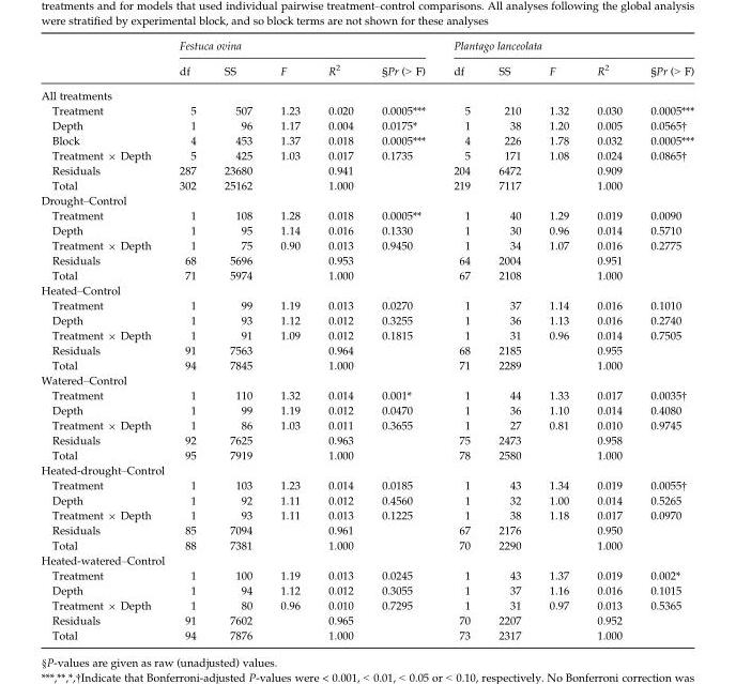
<table><thead><tr><td rowspan="2"></td><td colspan="5">Festuca ovina</td><td colspan="5">Plantago lanceolata</td></tr><tr><td>df</td><td>SS</td><td>F</td><td>R<sup>2</sup></td><td>§Pr (&gt; F)</td><td>df</td><td>SS</td><td>F</td><td>R<sup>2</sup></td><td>§Pr (&gt; F)</td></tr></thead><tbody><tr><td colspan="11">All treatments</td></tr><tr><td>Treatment</td><td>5</td><td>507</td><td>1.23</td><td>0.020</td><td>0.0005***</td><td>5</td><td>210</td><td>1.32</td><td>0.030</td><td>0.0005***</td></tr><tr><td>Depth</td><td>1</td><td>96</td><td>1.17</td><td>0.004</td><td>0.0175*</td><td>1</td><td>38</td><td>1.20</td><td>0.005</td><td>0.0565†</td></tr><tr><td>Block</td><td>4</td><td>453</td><td>1.37</td><td>0.018</td><td>0.0005***</td><td>4</td><td>226</td><td>1.78</td><td>0.032</td><td>0.0005***</td></tr><tr><td>Treatment × Depth</td><td>5</td><td>425</td><td>1.03</td><td>0.017</td><td>0.1735</td><td>5</td><td>171</td><td>1.08</td><td>0.024</td><td>0.0865†</td></tr><tr><td>Residuals</td><td>287</td><td>23680</td><td></td><td>0.941</td><td></td><td>204</td><td>6472</td><td></td><td>0.909</td><td></td></tr><tr><td>Total</td><td>302</td><td>25162</td><td></td><td>1.000</td><td></td><td>219</td><td>7117</td><td></td><td>1.000</td><td></td></tr><tr><td colspan="11">Drought–Control</td></tr><tr><td>Treatment</td><td>1</td><td>108</td><td>1.28</td><td>0.018</td><td>0.0005**</td><td>1</td><td>40</td><td>1.29</td><td>0.019</td><td>0.0090</td></tr><tr><td>Depth</td><td>1</td><td>95</td><td>1.14</td><td>0.016</td><td>0.1330</td><td>1</td><td>30</td><td>0.96</td><td>0.014</td><td>0.5710</td></tr><tr><td>Treatment × Depth</td><td>1</td><td>75</td><td>0.90</td><td>0.013</td><td>0.9450</td><td>1</td><td>34</td><td>1.07</td><td>0.016</td><td>0.2775</td></tr><tr><td>Residuals</td><td>68</td><td>5696</td><td></td><td>0.953</td><td></td><td>64</td><td>2004</td><td></td><td>0.951</td><td></td></tr><tr><td>Total</td><td>71</td><td>5974</td><td></td><td>1.000</td><td></td><td>67</td><td>2108</td><td></td><td>1.000</td><td></td></tr><tr><td colspan="11">Heated–Control</td></tr><tr><td>Treatment</td><td>1</td><td>99</td><td>1.19</td><td>0.013</td><td>0.0270</td><td>1</td><td>37</td><td>1.14</td><td>0.016</td><td>0.1010</td></tr><tr><td>Depth</td><td>1</td><td>93</td><td>1.12</td><td>0.012</td><td>0.3255</td><td>1</td><td>36</td><td>1.13</td><td>0.016</td><td>0.2740</td></tr><tr><td>Treatment × Depth</td><td>1</td><td>91</td><td>1.09</td><td>0.012</td><td>0.1815</td><td>1</td><td>31</td><td>0.96</td><td>0.014</td><td>0.7505</td></tr><tr><td>Residuals</td><td>91</td><td>7563</td><td></td><td>0.964</td><td></td><td>68</td><td>2185</td><td></td><td>0.955</td><td></td></tr><tr><td>Total</td><td>94</td><td>7845</td><td></td><td>1.000</td><td></td><td>71</td><td>2289</td><td></td><td>1.000</td><td></td></tr><tr><td colspan="11">Watered–Control</td></tr><tr><td>Treatment</td><td>1</td><td>110</td><td>1.32</td><td>0.014</td><td>0.001*</td><td>1</td><td>44</td><td>1.33</td><td>0.017</td><td>0.0035†</td></tr><tr><td>Depth</td><td>1</td><td>99</td><td>1.19</td><td>0.012</td><td>0.0470</td><td>1</td><td>36</td><td>1.10</td><td>0.014</td><td>0.4080</td></tr><tr><td>Treatment × Depth</td><td>1</td><td>86</td><td>1.03</td><td>0.011</td><td>0.3655</td><td>1</td><td>27</td><td>0.81</td><td>0.010</td><td>0.9745</td></tr><tr><td>Residuals</td><td>92</td><td>7625</td><td></td><td>0.963</td><td></td><td>75</td><td>2473</td><td></td><td>0.958</td><td></td></tr><tr><td>Total</td><td>95</td><td>7919</td><td></td><td>1.000</td><td></td><td>78</td><td>2580</td><td></td><td>1.000</td><td></td></tr><tr><td colspan="11">Heated-drought–Control</td></tr><tr><td>Treatment</td><td>1</td><td>103</td><td>1.23</td><td>0.014</td><td>0.0185</td><td>1</td><td>43</td><td>1.34</td><td>0.019</td><td>0.0055†</td></tr><tr><td>Depth</td><td>1</td><td>92</td><td>1.11</td><td>0.012</td><td>0.4560</td><td>1</td><td>32</td><td>1.00</td><td>0.014</td><td>0.5265</td></tr><tr><td>Treatment × Depth</td><td>1</td><td>93</td><td>1.11</td><td>0.013</td><td>0.1225</td><td>1</td><td>38</td><td>1.18</td><td>0.017</td><td>0.0970</td></tr><tr><td>Residuals</td><td>85</td><td>7094</td><td></td><td>0.961</td><td></td><td>67</td><td>2176</td><td></td><td>0.950</td><td></td></tr><tr><td>Total</td><td>88</td><td>7381</td><td></td><td>1.000</td><td></td><td>70</td><td>2290</td><td></td><td>1.000</td><td></td></tr><tr><td colspan="11">Heated-watered–Control</td></tr><tr><td>Treatment</td><td>1</td><td>100</td><td>1.19</td><td>0.013</td><td>0.0245</td><td>1</td><td>43</td><td>1.37</td><td>0.019</td><td>0.002*</td></tr><tr><td>Depth</td><td>1</td><td>94</td><td>1.12</td><td>0.012</td><td>0.3055</td><td>1</td><td>37</td><td>1.16</td><td>0.016</td><td>0.1015</td></tr><tr><td>Treatment × Depth</td><td>1</td><td>80</td><td>0.96</td><td>0.010</td><td>0.7295</td><td>1</td><td>31</td><td>0.97</td><td>0.013</td><td>0.5365</td></tr><tr><td>Residuals</td><td>91</td><td>7602</td><td></td><td>0.965</td><td></td><td>70</td><td>2207</td><td></td><td>0.952</td><td></td></tr><tr><td>Total</td><td>94</td><td>7876</td><td></td><td>1.000</td><td></td><td>73</td><td>2317</td><td></td><td>1.000</td><td></td></tr></tbody></table>